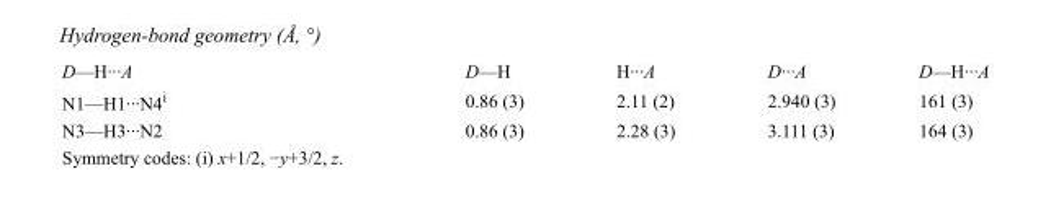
<table><tbody><tr><td>D—H···A</td><td>D—H</td><td>H···A</td><td>D···A</td><td>D—H···A</td></tr><tr><td>N1—H1···N4<sup>i</sup></td><td>0.86 (3)</td><td>2.11 (2)</td><td>2.940 (3)</td><td>161 (3)</td></tr><tr><td>N3—H3···N2</td><td>0.86 (3)</td><td>2.28 (3)</td><td>3.111 (3)</td><td>164 (3)</td></tr></tbody></table>